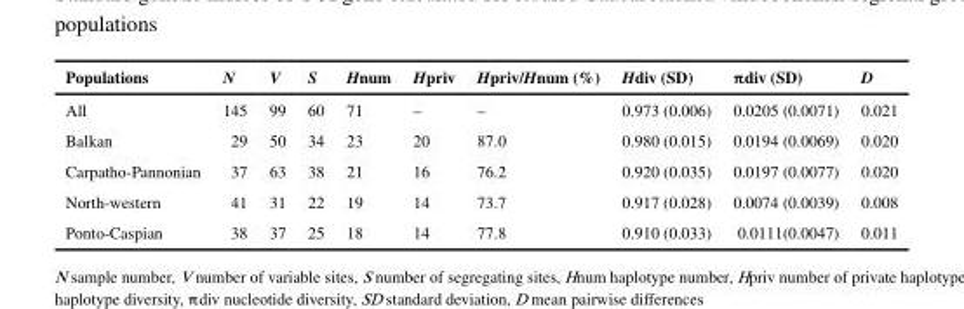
<table><thead><tr><td>Populations</td><td>N</td><td>V</td><td>S</td><td>Hnum</td><td>Hpriv</td><td>Hpriv/Hnum (%)</td><td>Hdiv (SD)</td><td>πdiv (SD)</td><td>D</td></tr></thead><tbody><tr><td>All</td><td>145</td><td>99</td><td>60</td><td>71</td><td>–</td><td>–</td><td>0.973 (0.006)</td><td>0.0205 (0.0071)</td><td>0.021</td></tr><tr><td>Balkan</td><td>29</td><td>50</td><td>34</td><td>23</td><td>20</td><td>87.0</td><td>0.980 (0.015)</td><td>0.0194 (0.0069)</td><td>0.020</td></tr><tr><td>Carpatho-Pannonian</td><td>37</td><td>63</td><td>38</td><td>21</td><td>16</td><td>76.2</td><td>0.920 (0.035)</td><td>0.0197 (0.0077)</td><td>0.020</td></tr><tr><td>North-western</td><td>41</td><td>31</td><td>22</td><td>19</td><td>14</td><td>73.7</td><td>0.917 (0.028)</td><td>0.0074 (0.0039)</td><td>0.008</td></tr><tr><td>Ponto-Caspian</td><td>38</td><td>37</td><td>25</td><td>18</td><td>14</td><td>77.8</td><td>0.910 (0.033)</td><td>0.0111(0.0047)</td><td>0.011</td></tr></tbody></table>